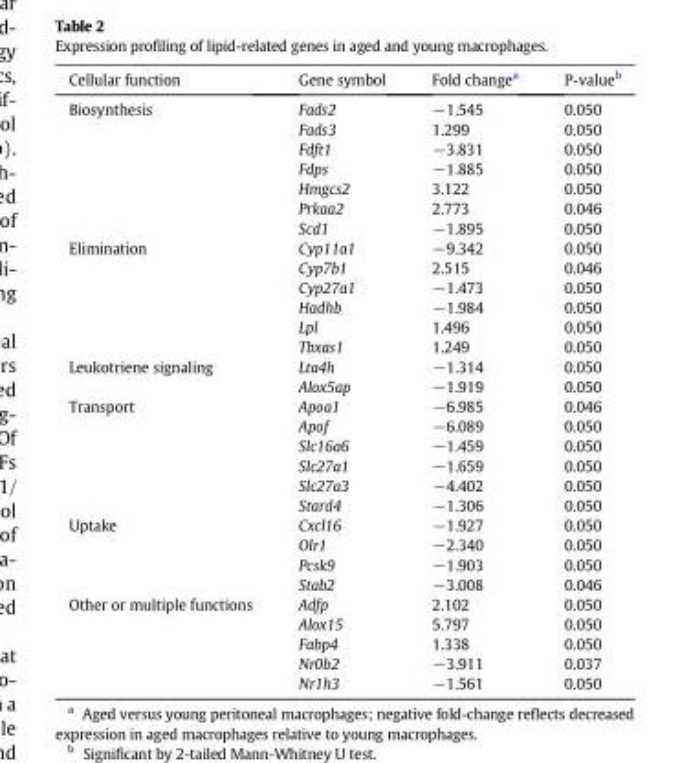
<table><thead><tr><td>Cellular function</td><td>Gene symbol</td><td>Fold change<sup>a</sup></td><td>P-value<sup>b</sup></td></tr></thead><tbody><tr><td rowspan="7">Biosynthesis</td><td>Fads2</td><td>−1.545</td><td>0.050</td></tr><tr><td>Fads3</td><td>1.299</td><td>0.050</td></tr><tr><td>Fdft1</td><td>−3.831</td><td>0.050</td></tr><tr><td>Fdps</td><td>−1.885</td><td>0.050</td></tr><tr><td>Hmgcs2</td><td>3.122</td><td>0.050</td></tr><tr><td>Prkaa2</td><td>2.773</td><td>0.046</td></tr><tr><td>Scd1</td><td>−1.895</td><td>0.050</td></tr><tr><td rowspan="6">Elimination</td><td>Cyp11a1</td><td>−9.342</td><td>0.050</td></tr><tr><td>Cyp7b1</td><td>2.515</td><td>0.046</td></tr><tr><td>Cyp27a1</td><td>−1.473</td><td>0.050</td></tr><tr><td>Hadhb</td><td>−1.984</td><td>0.050</td></tr><tr><td>Lpl</td><td>1.496</td><td>0.050</td></tr><tr><td>Tbxas1</td><td>1.249</td><td>0.050</td></tr><tr><td rowspan="2">Leukotriene signaling</td><td>Lta4h</td><td>−1.314</td><td>0.050</td></tr><tr><td>Alox5ap</td><td>−1.919</td><td>0.050</td></tr><tr><td rowspan="6">Transport</td><td>Apoa1</td><td>−6.985</td><td>0.046</td></tr><tr><td>Apof</td><td>−6.089</td><td>0.050</td></tr><tr><td>Slc16a6</td><td>−1.459</td><td>0.050</td></tr><tr><td>Slc27a1</td><td>−1.659</td><td>0.050</td></tr><tr><td>Slc27a3</td><td>−4.402</td><td>0.050</td></tr><tr><td>Stard4</td><td>−1.306</td><td>0.050</td></tr><tr><td rowspan="4">Uptake</td><td>Cxcl16</td><td>−1.927</td><td>0.050</td></tr><tr><td>Olr1</td><td>−2.340</td><td>0.050</td></tr><tr><td>Pcsk9</td><td>−1.903</td><td>0.050</td></tr><tr><td>Stab2</td><td>−3.008</td><td>0.046</td></tr><tr><td rowspan="5">Other or multiple functions</td><td>Adfp</td><td>2.102</td><td>0.050</td></tr><tr><td>Alox15</td><td>5.797</td><td>0.050</td></tr><tr><td>Fabp4</td><td>1.338</td><td>0.050</td></tr><tr><td>Nr0b2</td><td>−3.911</td><td>0.037</td></tr><tr><td>Nr1h3</td><td>−1.561</td><td>0.050</td></tr></tbody></table>